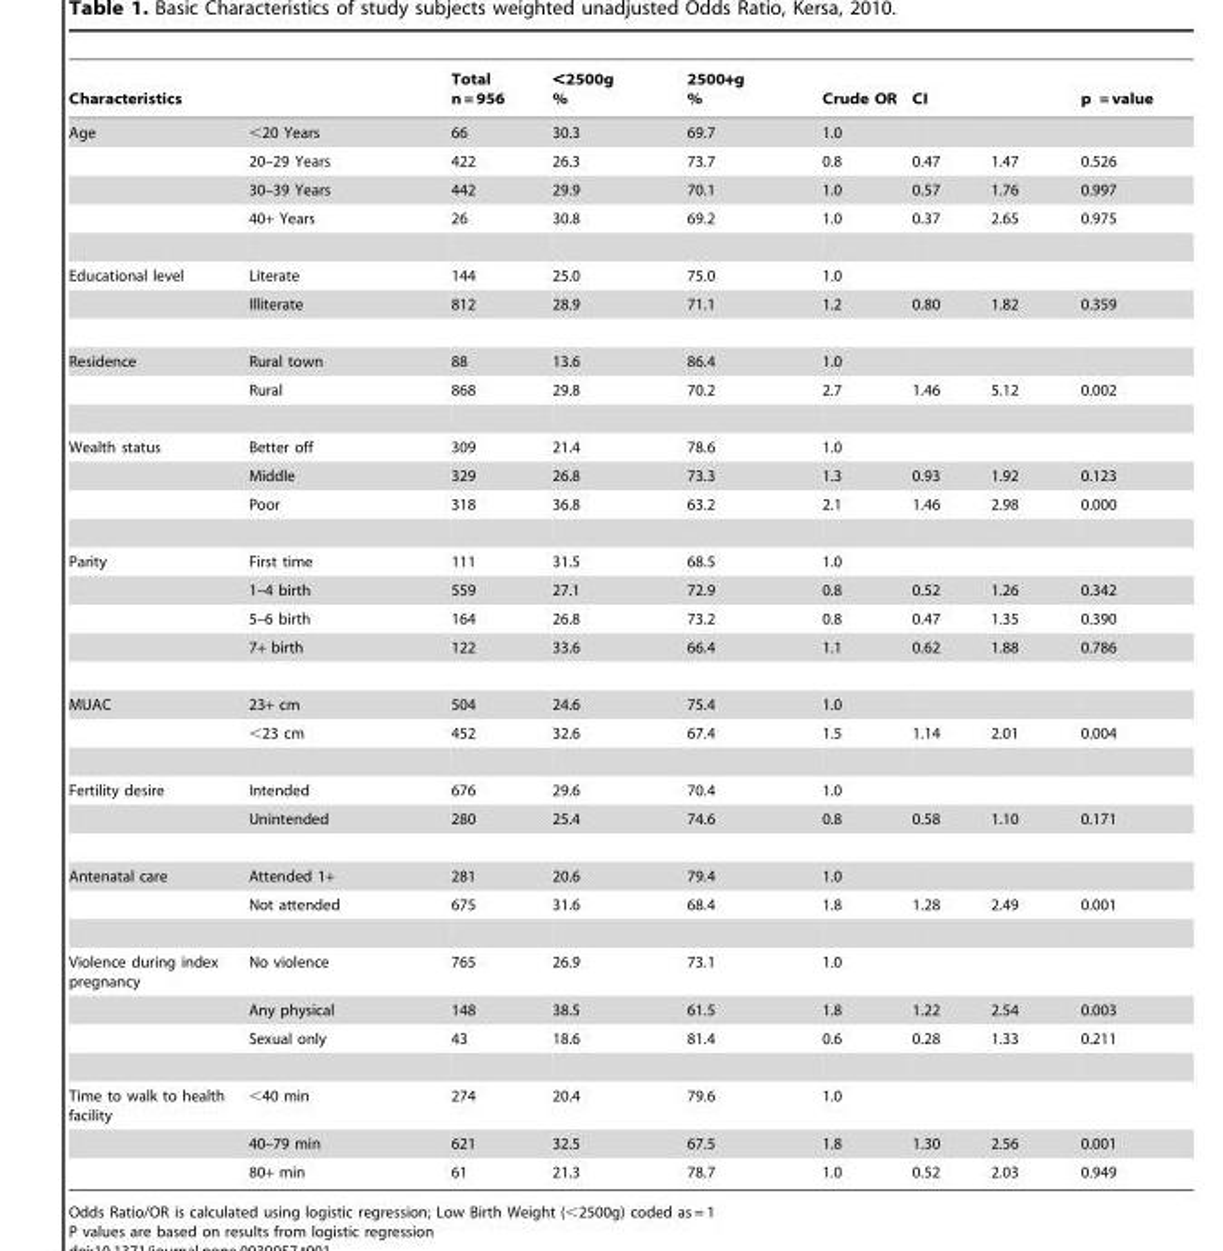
<table><thead><tr><td rowspan="2">Characteristics Age</td><td rowspan="2">&lt;20 Years</td><td rowspan="2">Total n = 956 66</td><td rowspan="2">&lt;2500g % 30.3</td><td rowspan="2">2500+g % 69.7</td><td rowspan="2">Crude OR 1.0</td><td colspan="2">CI</td><td rowspan="2">p = value</td></tr><tr><td></td><td></td></tr></thead><tbody><tr><td></td><td>20–29 Years</td><td>422</td><td>26.3</td><td>73.7</td><td>0.8</td><td>0.47</td><td>1.47</td><td>0.526</td></tr><tr><td></td><td>30–39 Years</td><td>442</td><td>29.9</td><td>70.1</td><td>1.0</td><td>0.57</td><td>1.76</td><td>0.997</td></tr><tr><td></td><td>40+ Years</td><td>26</td><td>30.8</td><td>69.2</td><td>1.0</td><td>0.37</td><td>2.65</td><td>0.975</td></tr><tr><td rowspan="2">Educational level</td><td>Literate</td><td>144</td><td>25.0</td><td>75.0</td><td>1.0</td><td></td><td></td><td></td></tr><tr><td>Illiterate</td><td>812</td><td>28.9</td><td>71.1</td><td>1.2</td><td>0.80</td><td>1.82</td><td>0.359</td></tr><tr><td rowspan="2">Residence</td><td>Rural town</td><td>88</td><td>13.6</td><td>86.4</td><td>1.0</td><td></td><td></td><td></td></tr><tr><td>Rural</td><td>868</td><td>29.8</td><td>70.2</td><td>2.7</td><td>1.46</td><td>5.12</td><td>0.002</td></tr><tr><td rowspan="3">Wealth status</td><td>Better off</td><td>309</td><td>21.4</td><td>78.6</td><td>1.0</td><td></td><td></td><td></td></tr><tr><td>Middle</td><td>329</td><td>26.8</td><td>73.3</td><td>1.3</td><td>0.93</td><td>1.92</td><td>0.123</td></tr><tr><td>Poor</td><td>318</td><td>36.8</td><td>63.2</td><td>2.1</td><td>1.46</td><td>2.98</td><td>0.000</td></tr><tr><td rowspan="4">Parity</td><td>First time</td><td>111</td><td>31.5</td><td>68.5</td><td>1.0</td><td></td><td></td><td></td></tr><tr><td>1–4 birth</td><td>559</td><td>27.1</td><td>72.9</td><td>0.8</td><td>0.52</td><td>1.26</td><td>0.342</td></tr><tr><td>5–6 birth</td><td>164</td><td>26.8</td><td>73.2</td><td>0.8</td><td>0.47</td><td>1.35</td><td>0.390</td></tr><tr><td>7+ birth</td><td>122</td><td>33.6</td><td>66.4</td><td>1.1</td><td>0.62</td><td>1.88</td><td>0.786</td></tr><tr><td rowspan="2">MUAC</td><td>23+ cm</td><td>504</td><td>24.6</td><td>75.4</td><td>1.0</td><td></td><td></td><td></td></tr><tr><td>&lt;23 cm</td><td>452</td><td>32.6</td><td>67.4</td><td>1.5</td><td>1.14</td><td>2.01</td><td>0.004</td></tr><tr><td rowspan="2">Fertility desire</td><td>Intended</td><td>676</td><td>29.6</td><td>70.4</td><td>1.0</td><td></td><td></td><td></td></tr><tr><td>Unintended</td><td>280</td><td>25.4</td><td>74.6</td><td>0.8</td><td>0.58</td><td>1.10</td><td>0.171</td></tr><tr><td rowspan="2">Antenatal care</td><td>Attended 1+</td><td>281</td><td>20.6</td><td>79.4</td><td>1.0</td><td></td><td></td><td></td></tr><tr><td>Not attended</td><td>675</td><td>31.6</td><td>68.4</td><td>1.8</td><td>1.28</td><td>2.49</td><td>0.001</td></tr><tr><td rowspan="3">Violence during index pregnancy</td><td>No violence</td><td>765</td><td>26.9</td><td>73.1</td><td>1.0</td><td></td><td></td><td></td></tr><tr><td>Any physical</td><td>148</td><td>38.5</td><td>61.5</td><td>1.8</td><td>1.22</td><td>2.54</td><td>0.003</td></tr><tr><td>Sexual only</td><td>43</td><td>18.6</td><td>81.4</td><td>0.6</td><td>0.28</td><td>1.33</td><td>0.211</td></tr><tr><td rowspan="3">Time to walk to health facility</td><td>&lt;40 min</td><td>274</td><td>20.4</td><td>79.6</td><td>1.0</td><td></td><td></td><td></td></tr><tr><td>40–79 min</td><td>621</td><td>32.5</td><td>67.5</td><td>1.8</td><td>1.30</td><td>2.56</td><td>0.001</td></tr><tr><td>80+ min</td><td>61</td><td>21.3</td><td>78.7</td><td>1.0</td><td>0.52</td><td>2.03</td><td>0.949</td></tr></tbody></table>